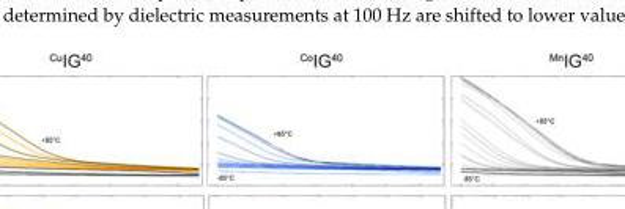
<table><thead><tr><td>ID</td><td>Young’s Modulus [GPa]</td><td>Yield Strain [%]</td></tr></thead><tbody><tr><td>PMMA</td><td>1.8011 ± 120.9</td><td>2.3 ± 0.52</td></tr><tr><td><sup>Cu</sup>IG<sup>40</sup></td><td>0.8328 ± 211.8</td><td>1.00 ± 0.55</td></tr><tr><td><sup>Co</sup>IG<sup>40</sup></td><td>0.9344 ± 86.6</td><td>1.07 ± 0.19</td></tr><tr><td><sup>Mn</sup>IG<sup>40</sup></td><td>0.6956 ± 72.9</td><td>0.67 ± 0.24</td></tr></tbody></table>